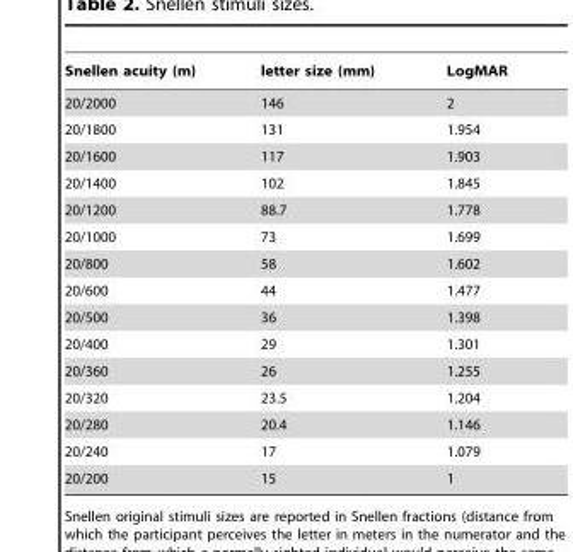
<table><thead><tr><td>Snellen acuity (m)</td><td>letter size (mm)</td><td>LogMAR</td></tr></thead><tbody><tr><td>20/2000</td><td>146</td><td>2</td></tr><tr><td>20/1800</td><td>131</td><td>1.954</td></tr><tr><td>20/1600</td><td>117</td><td>1.903</td></tr><tr><td>20/1400</td><td>102</td><td>1.845</td></tr><tr><td>20/1200</td><td>88.7</td><td>1.778</td></tr><tr><td>20/1000</td><td>73</td><td>1.699</td></tr><tr><td>20/800</td><td>58</td><td>1.602</td></tr><tr><td>20/600</td><td>44</td><td>1.477</td></tr><tr><td>20/500</td><td>36</td><td>1.398</td></tr><tr><td>20/400</td><td>29</td><td>1.301</td></tr><tr><td>20/360</td><td>26</td><td>1.255</td></tr><tr><td>20/320</td><td>23.5</td><td>1.204</td></tr><tr><td>20/280</td><td>20.4</td><td>1.146</td></tr><tr><td>20/240</td><td>17</td><td>1.079</td></tr><tr><td>20/200</td><td>15</td><td>1</td></tr></tbody></table>